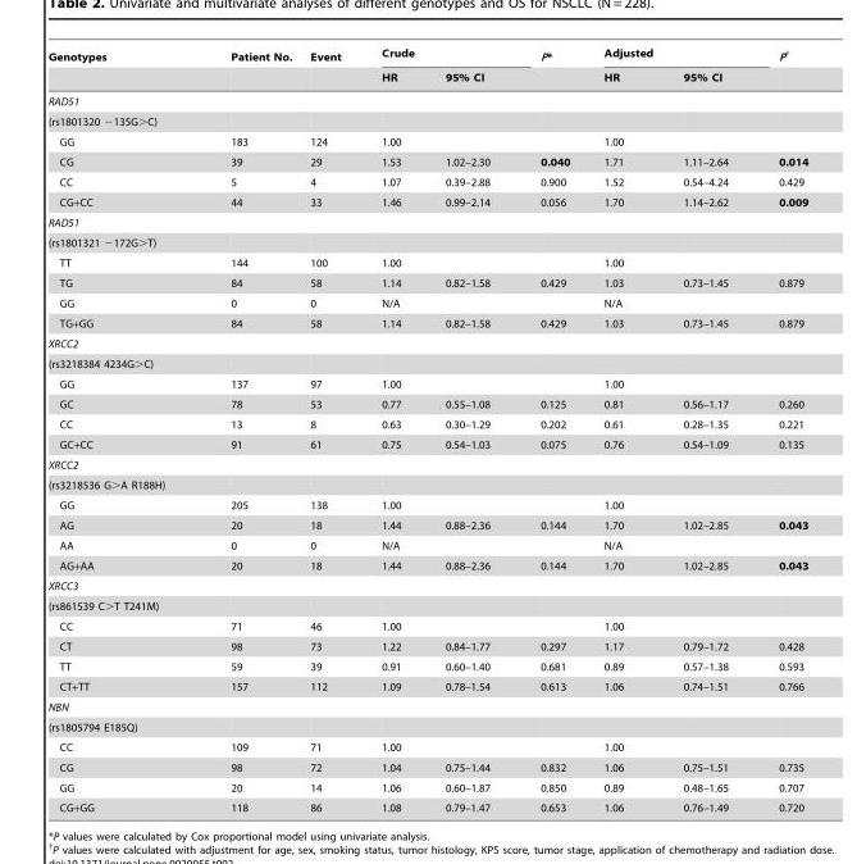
<table><thead><tr><td rowspan="2">Genotypes</td><td rowspan="2">Patient No.</td><td rowspan="2">Event</td><td colspan="2">Crude</td><td rowspan="2">P*</td><td colspan="2">Adjusted</td><td rowspan="2">P†</td></tr><tr><td>HR</td><td>95% CI</td><td>HR</td><td>95% CI</td></tr></thead><tbody><tr><td colspan="9">RAD51</td></tr><tr><td colspan="9">(rs1801320 −135G&gt;C)</td></tr><tr><td>GG</td><td>183</td><td>124</td><td>1.00</td><td></td><td></td><td>1.00</td><td></td><td></td></tr><tr><td>CG</td><td>39</td><td>29</td><td>1.53</td><td>1.02–2.30</td><td>0.040</td><td>1.71</td><td>1.11–2.64</td><td>0.014</td></tr><tr><td>CC</td><td>5</td><td>4</td><td>1.07</td><td>0.39–2.88</td><td>0.900</td><td>1.52</td><td>0.54–4.24</td><td>0.429</td></tr><tr><td>CG+CC</td><td>44</td><td>33</td><td>1.46</td><td>0.99–2.14</td><td>0.056</td><td>1.70</td><td>1.14–2.62</td><td>0.009</td></tr><tr><td colspan="9">RAD51</td></tr><tr><td colspan="9">(rs1801321 −172G&gt;T)</td></tr><tr><td>TT</td><td>144</td><td>100</td><td>1.00</td><td></td><td></td><td>1.00</td><td></td><td></td></tr><tr><td>TG</td><td>84</td><td>58</td><td>1.14</td><td>0.82–1.58</td><td>0.429</td><td>1.03</td><td>0.73–1.45</td><td>0.879</td></tr><tr><td>GG</td><td>0</td><td>0</td><td>N/A</td><td></td><td></td><td>N/A</td><td></td><td></td></tr><tr><td>TG+GG</td><td>84</td><td>58</td><td>1.14</td><td>0.82–1.58</td><td>0.429</td><td>1.03</td><td>0.73–1.45</td><td>0.879</td></tr><tr><td colspan="9">XRCC2</td></tr><tr><td colspan="9">(rs3218384 4234G&gt;C)</td></tr><tr><td>GG</td><td>137</td><td>97</td><td>1.00</td><td></td><td></td><td>1.00</td><td></td><td></td></tr><tr><td>GC</td><td>78</td><td>53</td><td>0.77</td><td>0.55–1.08</td><td>0.125</td><td>0.81</td><td>0.56–1.17</td><td>0.260</td></tr><tr><td>CC</td><td>13</td><td>8</td><td>0.63</td><td>0.30–1.29</td><td>0.202</td><td>0.61</td><td>0.28–1.35</td><td>0.221</td></tr><tr><td>GC+CC</td><td>91</td><td>61</td><td>0.75</td><td>0.54–1.03</td><td>0.075</td><td>0.76</td><td>0.54–1.09</td><td>0.135</td></tr><tr><td colspan="9">XRCC2</td></tr><tr><td colspan="9">(rs3218536 G&gt;A R188H)</td></tr><tr><td>GG</td><td>205</td><td>138</td><td>1.00</td><td></td><td></td><td>1.00</td><td></td><td></td></tr><tr><td>AG</td><td>20</td><td>18</td><td>1.44</td><td>0.88–2.36</td><td>0.144</td><td>1.70</td><td>1.02–2.85</td><td>0.043</td></tr><tr><td>AA</td><td>0</td><td>0</td><td>N/A</td><td></td><td></td><td>N/A</td><td></td><td></td></tr><tr><td>AG+AA</td><td>20</td><td>18</td><td>1.44</td><td>0.88–2.36</td><td>0.144</td><td>1.70</td><td>1.02–2.85</td><td>0.043</td></tr><tr><td colspan="9">XRCC3</td></tr><tr><td colspan="9">(rs861539 C&gt;T T241M)</td></tr><tr><td>CC</td><td>71</td><td>46</td><td>1.00</td><td></td><td></td><td>1.00</td><td></td><td></td></tr><tr><td>CT</td><td>98</td><td>73</td><td>1.22</td><td>0.84–1.77</td><td>0.297</td><td>1.17</td><td>0.79–1.72</td><td>0.428</td></tr><tr><td>TT</td><td>59</td><td>39</td><td>0.91</td><td>0.60–1.40</td><td>0.681</td><td>0.89</td><td>0.57–1.38</td><td>0.593</td></tr><tr><td>CT+TT</td><td>157</td><td>112</td><td>1.09</td><td>0.78–1.54</td><td>0.613</td><td>1.06</td><td>0.74–1.51</td><td>0.766</td></tr><tr><td colspan="9">NBN</td></tr><tr><td colspan="9">(rs1805794 E185Q)</td></tr><tr><td>CC</td><td>109</td><td>71</td><td>1.00</td><td></td><td></td><td>1.00</td><td></td><td></td></tr><tr><td>CG</td><td>98</td><td>72</td><td>1.04</td><td>0.75–1.44</td><td>0.832</td><td>1.06</td><td>0.75–1.51</td><td>0.735</td></tr><tr><td>GG</td><td>20</td><td>14</td><td>1.06</td><td>0.60–1.87</td><td>0.850</td><td>0.89</td><td>0.48–1.65</td><td>0.707</td></tr><tr><td>CG+GG</td><td>118</td><td>86</td><td>1.08</td><td>0.79–1.47</td><td>0.653</td><td>1.06</td><td>0.76–1.49</td><td>0.720</td></tr></tbody></table>